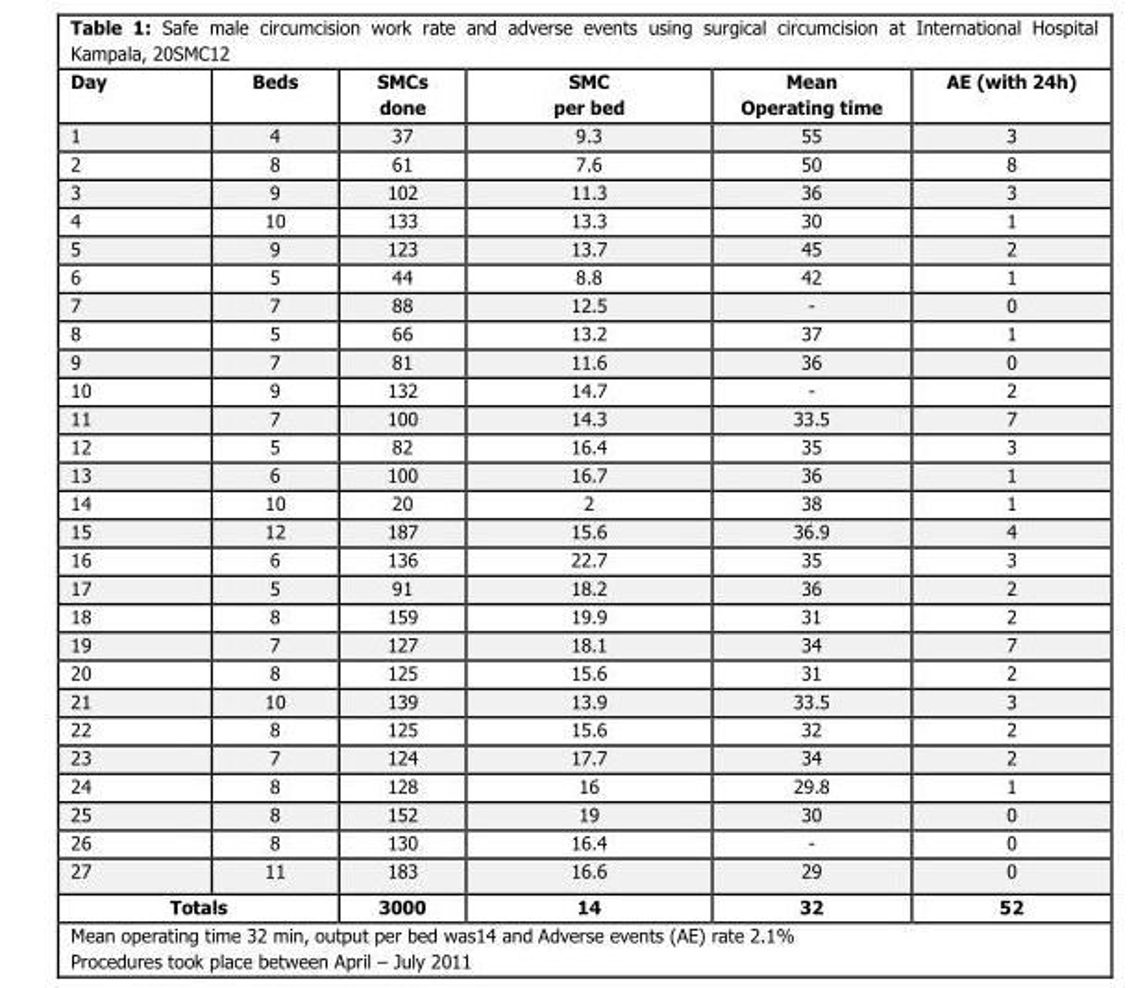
<table><thead><tr><td>Day</td><td>Beds</td><td>SMCs done</td><td>SMC per bed</td><td>Mean Operating time</td><td>AE (with 24h)</td></tr></thead><tbody><tr><td>1</td><td>4</td><td>37</td><td>9.3</td><td>55</td><td>3</td></tr><tr><td>2</td><td>8</td><td>61</td><td>7.6</td><td>50</td><td>8</td></tr><tr><td>3</td><td>9</td><td>102</td><td>11.3</td><td>36</td><td>3</td></tr><tr><td>4</td><td>10</td><td>133</td><td>13.3</td><td>30</td><td>1</td></tr><tr><td>5</td><td>9</td><td>123</td><td>13.7</td><td>45</td><td>2</td></tr><tr><td>6</td><td>5</td><td>44</td><td>8.8</td><td>42</td><td>1</td></tr><tr><td>7</td><td>7</td><td>88</td><td>12.5</td><td>-</td><td>0</td></tr><tr><td>8</td><td>5</td><td>66</td><td>13.2</td><td>37</td><td>1</td></tr><tr><td>9</td><td>7</td><td>81</td><td>11.6</td><td>36</td><td>0</td></tr><tr><td>10</td><td>9</td><td>132</td><td>14.7</td><td>-</td><td>2</td></tr><tr><td>11</td><td>7</td><td>100</td><td>14.3</td><td>33.5</td><td>7</td></tr><tr><td>12</td><td>5</td><td>82</td><td>16.4</td><td>35</td><td>3</td></tr><tr><td>13</td><td>6</td><td>100</td><td>16.7</td><td>36</td><td>1</td></tr><tr><td>14</td><td>10</td><td>20</td><td>2</td><td>38</td><td>1</td></tr><tr><td>15</td><td>12</td><td>187</td><td>15.6</td><td>36.9</td><td>4</td></tr><tr><td>16</td><td>6</td><td>136</td><td>22.7</td><td>35</td><td>3</td></tr><tr><td>17</td><td>5</td><td>91</td><td>18.2</td><td>36</td><td>2</td></tr><tr><td>18</td><td>8</td><td>159</td><td>19.9</td><td>31</td><td>2</td></tr><tr><td>19</td><td>7</td><td>127</td><td>18.1</td><td>34</td><td>7</td></tr><tr><td>20</td><td>8</td><td>125</td><td>15.6</td><td>31</td><td>2</td></tr><tr><td>21</td><td>10</td><td>139</td><td>13.9</td><td>33.5</td><td>3</td></tr><tr><td>22</td><td>8</td><td>125</td><td>15.6</td><td>32</td><td>2</td></tr><tr><td>23</td><td>7</td><td>124</td><td>17.7</td><td>34</td><td>2</td></tr><tr><td>24</td><td>8</td><td>128</td><td>16</td><td>29.8</td><td>1</td></tr><tr><td>25</td><td>8</td><td>152</td><td>19</td><td>30</td><td>0</td></tr><tr><td>26</td><td>8</td><td>130</td><td>16.4</td><td>-</td><td>0</td></tr><tr><td>27</td><td>11</td><td>183</td><td>16.6</td><td>29</td><td>0</td></tr><tr><td colspan="2">Totals</td><td>3000</td><td>14</td><td>32</td><td>52</td></tr></tbody></table>